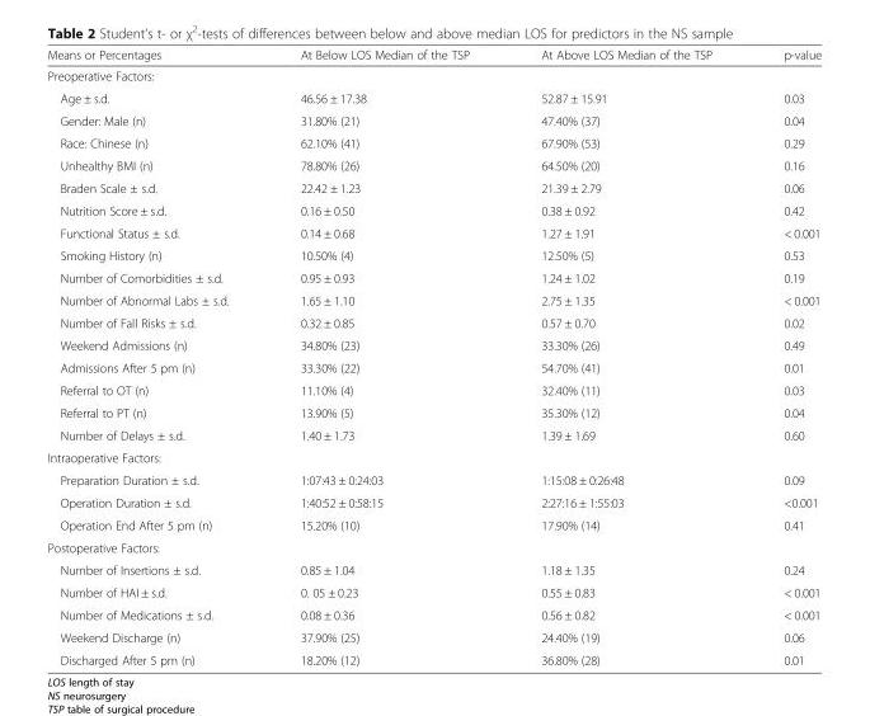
<table><thead><tr><td>Means or Percentages</td><td>At Below LOS Median of the TSP</td><td>At Above LOS Median of the TSP</td><td>p-value</td></tr></thead><tbody><tr><td colspan="4">Preoperative Factors:</td></tr><tr><td>Age ± s.d.</td><td>46.56 ± 17.38</td><td>52.87 ± 15.91</td><td>0.03</td></tr><tr><td>Gender: Male (n)</td><td>31.80% (21)</td><td>47.40% (37)</td><td>0.04</td></tr><tr><td>Race: Chinese (n)</td><td>62.10% (41)</td><td>67.90% (53)</td><td>0.29</td></tr><tr><td>Unhealthy BMI (n)</td><td>78.80% (26)</td><td>64.50% (20)</td><td>0.16</td></tr><tr><td>Braden Scale ± s.d.</td><td>22.42 ± 1.23</td><td>21.39 ± 2.79</td><td>0.06</td></tr><tr><td>Nutrition Score ± s.d.</td><td>0.16 ± 0.50</td><td>0.38 ± 0.92</td><td>0.42</td></tr><tr><td>Functional Status ± s.d.</td><td>0.14 ± 0.68</td><td>1.27 ± 1.91</td><td>&lt; 0.001</td></tr><tr><td>Smoking History (n)</td><td>10.50% (4)</td><td>12.50% (5)</td><td>0.53</td></tr><tr><td>Number of Comorbidities ± s.d.</td><td>0.95 ± 0.93</td><td>1.24 ± 1.02</td><td>0.19</td></tr><tr><td>Number of Abnormal Labs ± s.d.</td><td>1.65 ± 1.10</td><td>2.75 ± 1.35</td><td>&lt; 0.001</td></tr><tr><td>Number of Fall Risks ± s.d.</td><td>0.32 ± 0.85</td><td>0.57 ± 0.70</td><td>0.02</td></tr><tr><td>Weekend Admissions (n)</td><td>34.80% (23)</td><td>33.30% (26)</td><td>0.49</td></tr><tr><td>Admissions After 5 pm (n)</td><td>33.30% (22)</td><td>54.70% (41)</td><td>0.01</td></tr><tr><td>Referral to OT (n)</td><td>11.10% (4)</td><td>32.40% (11)</td><td>0.03</td></tr><tr><td>Referral to PT (n)</td><td>13.90% (5)</td><td>35.30% (12)</td><td>0.04</td></tr><tr><td>Number of Delays ± s.d.</td><td>1.40 ± 1.73</td><td>1.39 ± 1.69</td><td>0.60</td></tr><tr><td colspan="4">Intraoperative Factors:</td></tr><tr><td>Preparation Duration ± s.d.</td><td>1:07:43 ± 0:24:03</td><td>1:15:08 ± 0:26:48</td><td>0.09</td></tr><tr><td>Operation Duration ± s.d.</td><td>1:40:52 ± 0:58:15</td><td>2:27:16 ± 1:55:03</td><td>&lt;0.001</td></tr><tr><td>Operation End After 5 pm (n)</td><td>15.20% (10)</td><td>17.90% (14)</td><td>0.41</td></tr><tr><td colspan="4">Postoperative Factors:</td></tr><tr><td>Number of Insertions ± s.d.</td><td>0.85 ± 1.04</td><td>1.18 ± 1.35</td><td>0.24</td></tr><tr><td>Number of HAI ± s.d.</td><td>0. 05 ± 0.23</td><td>0.55 ± 0.83</td><td>&lt; 0.001</td></tr><tr><td>Number of Medications ± s.d.</td><td>0.08 ± 0.36</td><td>0.56 ± 0.82</td><td>&lt; 0.001</td></tr><tr><td>Weekend Discharge (n)</td><td>37.90% (25)</td><td>24.40% (19)</td><td>0.06</td></tr><tr><td>Discharged After 5 pm (n)</td><td>18.20% (12)</td><td>36.80% (28)</td><td>0.01</td></tr></tbody></table>